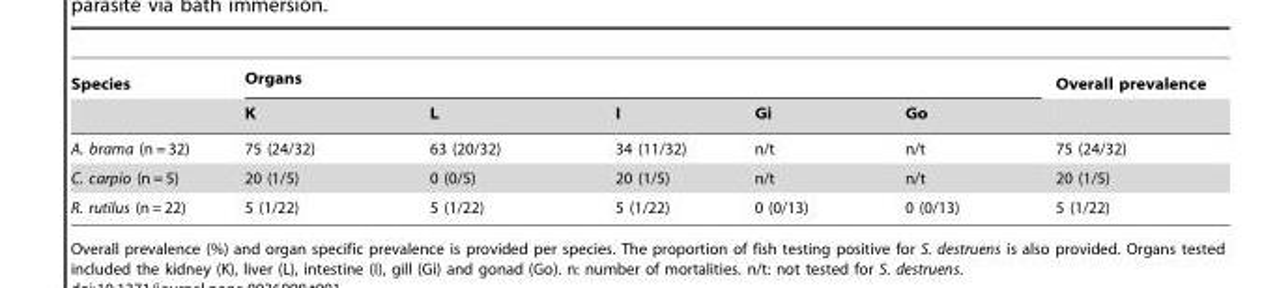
<table><thead><tr><td rowspan="2">Species</td><td colspan="5">Organs</td><td rowspan="2">Overall prevalence</td></tr><tr><td>K</td><td>L</td><td>I</td><td>Gi</td><td>Go</td></tr></thead><tbody><tr><td>A. brama (n = 32)</td><td>75 (24/32)</td><td>63 (20/32)</td><td>34 (11/32)</td><td>n/t</td><td>n/t</td><td>75 (24/32)</td></tr><tr><td>C. carpio (n = 5)</td><td>20 (1/5)</td><td>0 (0/5)</td><td>20 (1/5)</td><td>n/t</td><td>n/t</td><td>20 (1/5)</td></tr><tr><td>R. rutilus (n = 22)</td><td>5 (1/22)</td><td>5 (1/22)</td><td>5 (1/22)</td><td>0 (0/13)</td><td>0 (0/13)</td><td>5 (1/22)</td></tr></tbody></table>